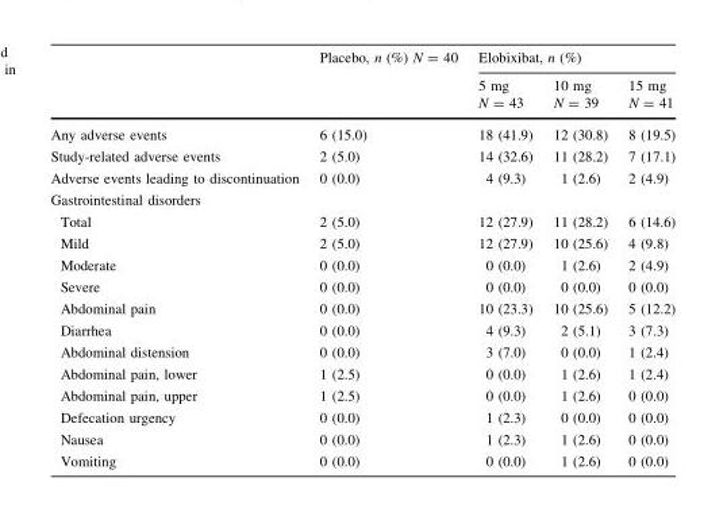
<table><thead><tr><td rowspan="2"></td><td rowspan="2">Placebo, n (%) N = 40</td><td colspan="3">Elobixibat, n (%)</td></tr><tr><td>5 mg N = 43</td><td>10 mg N = 39</td><td>15 mg N = 41</td></tr></thead><tbody><tr><td>Any adverse events</td><td>6 (15.0)</td><td>18 (41.9)</td><td>12 (30.8)</td><td>8 (19.5)</td></tr><tr><td>Study-related adverse events</td><td>2 (5.0)</td><td>14 (32.6)</td><td>11 (28.2)</td><td>7 (17.1)</td></tr><tr><td>Adverse events leading to discontinuation</td><td>0 (0.0)</td><td>4 (9.3)</td><td>1 (2.6)</td><td>2 (4.9)</td></tr><tr><td colspan="5">Gastrointestinal disorders</td></tr><tr><td>Total</td><td>2 (5.0)</td><td>12 (27.9)</td><td>11 (28.2)</td><td>6 (14.6)</td></tr><tr><td>Mild</td><td>2 (5.0)</td><td>12 (27.9)</td><td>10 (25.6)</td><td>4 (9.8)</td></tr><tr><td>Moderate</td><td>0 (0.0)</td><td>0 (0.0)</td><td>1 (2.6)</td><td>2 (4.9)</td></tr><tr><td>Severe</td><td>0 (0.0)</td><td>0 (0.0)</td><td>0 (0.0)</td><td>0 (0.0)</td></tr><tr><td>Abdominal pain</td><td>0 (0.0)</td><td>10 (23.3)</td><td>10 (25.6)</td><td>5 (12.2)</td></tr><tr><td>Diarrhea</td><td>0 (0.0)</td><td>4 (9.3)</td><td>2 (5.1)</td><td>3 (7.3)</td></tr><tr><td>Abdominal distension</td><td>0 (0.0)</td><td>3 (7.0)</td><td>0 (0.0)</td><td>1 (2.4)</td></tr><tr><td>Abdominal pain, lower</td><td>1 (2.5)</td><td>0 (0.0)</td><td>1 (2.6)</td><td>1 (2.4)</td></tr><tr><td>Abdominal pain, upper</td><td>1 (2.5)</td><td>0 (0.0)</td><td>1 (2.6)</td><td>0 (0.0)</td></tr><tr><td>Defecation urgency</td><td>0 (0.0)</td><td>1 (2.3)</td><td>0 (0.0)</td><td>0 (0.0)</td></tr><tr><td>Nausea</td><td>0 (0.0)</td><td>1 (2.3)</td><td>1 (2.6)</td><td>0 (0.0)</td></tr><tr><td>Vomiting</td><td>0 (0.0)</td><td>0 (0.0)</td><td>1 (2.6)</td><td>0 (0.0)</td></tr></tbody></table>